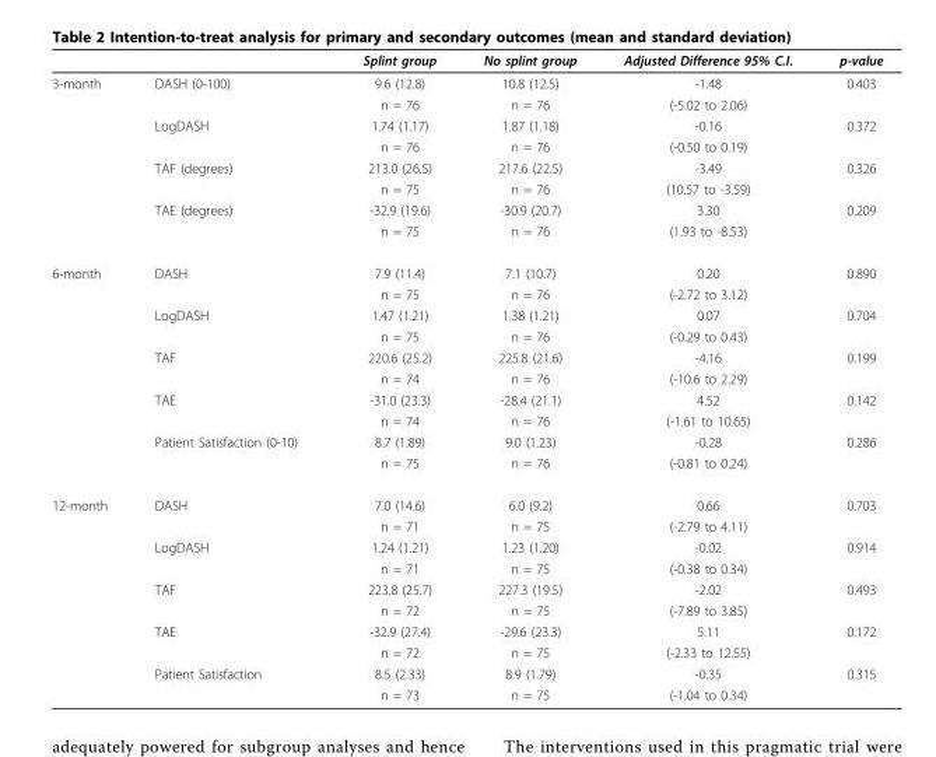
<table><thead><tr><td></td><td></td><td>Splint group</td><td>No splint group</td><td>Adjusted Difference 95% C.I.</td><td>p-value</td></tr></thead><tbody><tr><td rowspan="8">3-month</td><td>DASH (0-100)</td><td>9.6 (12.8)</td><td>10.8 (12.5)</td><td>-1.48</td><td>0.403</td></tr><tr><td></td><td>n = 76</td><td>n = 76</td><td>(-5.02 to 2.06)</td><td></td></tr><tr><td>LogDASH</td><td>1.74 (1.17)</td><td>1.87 (1.18)</td><td>-0.16</td><td>0.372</td></tr><tr><td></td><td>n = 76</td><td>n = 76</td><td>(-0.50 to 0.19)</td><td></td></tr><tr><td>TAF (degrees)</td><td>213.0 (26.5)</td><td>217.6 (22.5)</td><td>-3.49</td><td>0.326</td></tr><tr><td></td><td>n = 75</td><td>n = 76</td><td>(10.57 to -3.59)</td><td></td></tr><tr><td>TAE (degrees)</td><td>-32.9 (19.6)</td><td>-30.9 (20.7)</td><td>3.30</td><td>0.209</td></tr><tr><td></td><td>n = 75</td><td>n = 76</td><td>(1.93 to -8.53)</td><td></td></tr><tr><td rowspan="10">6-month</td><td>DASH</td><td>7.9 (11.4)</td><td>7.1 (10.7)</td><td>0.20</td><td>0.890</td></tr><tr><td></td><td>n = 75</td><td>n = 76</td><td>(-2.72 to 3.12)</td><td></td></tr><tr><td>LogDASH</td><td>1.47 (1.21)</td><td>1.38 (1.21)</td><td>0.07</td><td>0.704</td></tr><tr><td></td><td>n = 75</td><td>n = 76</td><td>(-0.29 to 0.43)</td><td></td></tr><tr><td>TAF</td><td>220.6 (25.2)</td><td>225.8 (21.6)</td><td>-4.16</td><td>0.199</td></tr><tr><td></td><td>n = 74</td><td>n = 76</td><td>(-10.6 to 2.29)</td><td></td></tr><tr><td>TAE</td><td>-31.0 (23.3)</td><td>-28.4 (21.1)</td><td>4.52</td><td>0.142</td></tr><tr><td></td><td>n = 74</td><td>n = 76</td><td>(-1.61 to 10.65)</td><td></td></tr><tr><td>Patient Satisfaction (0-10)</td><td>8.7 (1.89)</td><td>9.0 (1.23)</td><td>-0.28</td><td>0.286</td></tr><tr><td></td><td>n = 75</td><td>n = 76</td><td>(-0.81 to 0.24)</td><td></td></tr><tr><td rowspan="10">12-month</td><td>DASH</td><td>7.0 (14.6)</td><td>6.0 (9.2)</td><td>0.66</td><td>0.703</td></tr><tr><td></td><td>n = 71</td><td>n = 75</td><td>(-2.79 to 4.11)</td><td></td></tr><tr><td>LogDASH</td><td>1.24 (1.21)</td><td>1.23 (1.20)</td><td>-0.02</td><td>0.914</td></tr><tr><td></td><td>n = 71</td><td>n = 75</td><td>(-0.38 to 0.34)</td><td></td></tr><tr><td>TAF</td><td>223.8 (25.7)</td><td>227.3 (19.5)</td><td>-2.02</td><td>0.493</td></tr><tr><td></td><td>n = 72</td><td>n = 75</td><td>(-7.89 to 3.85)</td><td></td></tr><tr><td>TAE</td><td>-32.9 (27.4)</td><td>-29.6 (23.3)</td><td>5.11</td><td>0.172</td></tr><tr><td></td><td>n = 72</td><td>n = 75</td><td>(-2.33 to 12.55)</td><td></td></tr><tr><td>Patient Satisfaction</td><td>8.5 (2.33)</td><td>8.9 (1.79)</td><td>-0.35</td><td>0.315</td></tr><tr><td></td><td>n = 73</td><td>n = 75</td><td>(-1.04 to 0.34)</td><td></td></tr></tbody></table>